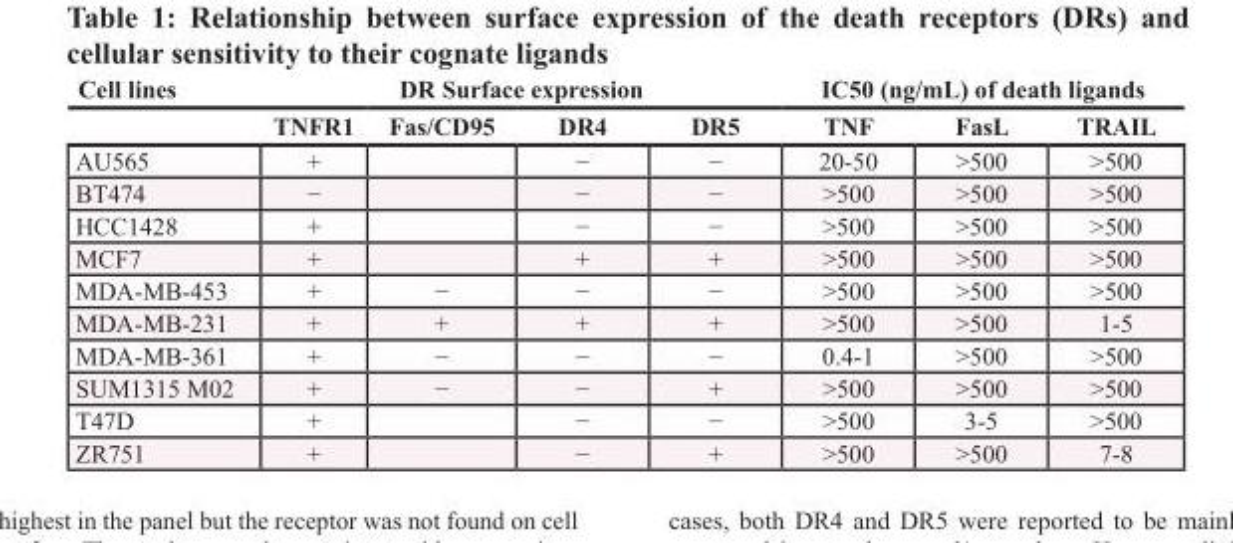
<table><thead><tr><td rowspan="2">Cell lines</td><td colspan="4">DR Surface expression</td><td colspan="3">IC50 (ng/mL) of death ligands</td></tr><tr><td>TNFR1</td><td>Fas/CD95</td><td>DR4</td><td>DR5</td><td>TNF</td><td>FasL</td><td>TRAIL</td></tr></thead><tbody><tr><td>AU565</td><td>+</td><td></td><td>−</td><td>−</td><td>20-50</td><td>&gt;500</td><td>&gt;500</td></tr><tr><td>BT474</td><td>−</td><td></td><td>−</td><td>−</td><td>&gt;500</td><td>&gt;500</td><td>&gt;500</td></tr><tr><td>HCC1428</td><td>+</td><td></td><td>−</td><td>−</td><td>&gt;500</td><td>&gt;500</td><td>&gt;500</td></tr><tr><td>MCF7</td><td>+</td><td></td><td>+</td><td>+</td><td>&gt;500</td><td>&gt;500</td><td>&gt;500</td></tr><tr><td>MDA-MB-453</td><td>+</td><td>−</td><td>−</td><td>−</td><td>&gt;500</td><td>&gt;500</td><td>&gt;500</td></tr><tr><td>MDA-MB-231</td><td>+</td><td>+</td><td>+</td><td>+</td><td>&gt;500</td><td>&gt;500</td><td>1-5</td></tr><tr><td>MDA-MB-361</td><td>+</td><td>−</td><td>−</td><td>−</td><td>0.4-1</td><td>&gt;500</td><td>&gt;500</td></tr><tr><td>SUM1315 M02</td><td>+</td><td>−</td><td>−</td><td>+</td><td>&gt;500</td><td>&gt;500</td><td>&gt;500</td></tr><tr><td>T47D</td><td>+</td><td></td><td>−</td><td>−</td><td>&gt;500</td><td>3-5</td><td>&gt;500</td></tr><tr><td>ZR751</td><td>+</td><td></td><td>−</td><td>+</td><td>&gt;500</td><td>&gt;500</td><td>7-8</td></tr></tbody></table>